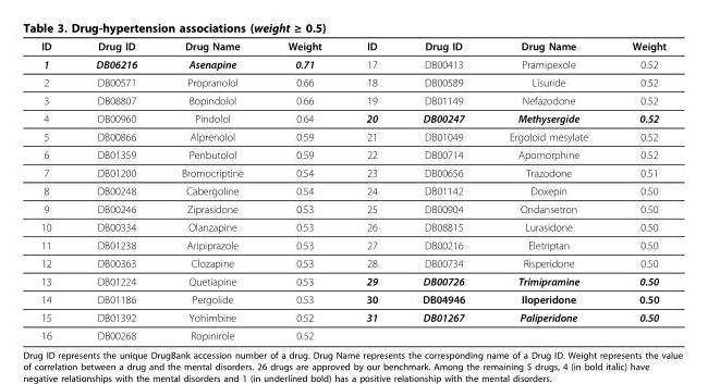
<table><thead><tr><td>ID</td><td>Drug ID</td><td>Drug Name</td><td>Weight</td><td>ID</td><td>Drug ID</td><td>Drug Name</td><td>Weight</td></tr></thead><tbody><tr><td>1</td><td>DB06216</td><td>Asenapine</td><td>0.71</td><td>17</td><td>DB00413</td><td>Pramipexole</td><td>0.52</td></tr><tr><td>2</td><td>DB00571</td><td>Propranolol</td><td>0.66</td><td>18</td><td>DB00589</td><td>Lisuride</td><td>0.52</td></tr><tr><td>3</td><td>DB08807</td><td>Bopindolol</td><td>0.66</td><td>19</td><td>DB01149</td><td>Nefazodone</td><td>0.52</td></tr><tr><td>4</td><td>DB00960</td><td>Pindolol</td><td>0.64</td><td>20</td><td>DB00247</td><td>Methysergide</td><td>0.52</td></tr><tr><td>5</td><td>DB00866</td><td>Alprenolol</td><td>0.59</td><td>21</td><td>DB01049</td><td>Ergoloid mesylate</td><td>0.52</td></tr><tr><td>6</td><td>DB01359</td><td>Penbutolol</td><td>0.59</td><td>22</td><td>DB00714</td><td>Apomorphine</td><td>0.52</td></tr><tr><td>7</td><td>DB01200</td><td>Bromocriptine</td><td>0.54</td><td>23</td><td>DB00656</td><td>Trazodone</td><td>0.51</td></tr><tr><td>8</td><td>DB00248</td><td>Cabergoline</td><td>0.54</td><td>24</td><td>DB01142</td><td>Doxepin</td><td>0.50</td></tr><tr><td>9</td><td>DB00246</td><td>Ziprasidone</td><td>0.53</td><td>25</td><td>DB00904</td><td>Ondansetron</td><td>0.50</td></tr><tr><td>10</td><td>DB00334</td><td>Olanzapine</td><td>0.53</td><td>26</td><td>DB08815</td><td>Lurasidone</td><td>0.50</td></tr><tr><td>11</td><td>DB01238</td><td>Aripiprazole</td><td>0.53</td><td>27</td><td>DB00216</td><td>Eletriptan</td><td>0.50</td></tr><tr><td>12</td><td>DB00363</td><td>Clozapine</td><td>0.53</td><td>28</td><td>DB00734</td><td>Risperidone</td><td>0.50</td></tr><tr><td>13</td><td>DB01224</td><td>Quetiapine</td><td>0.53</td><td>29</td><td>DB00726</td><td>Trimipramine</td><td>0.50</td></tr><tr><td>14</td><td>DB01186</td><td>Pergolide</td><td>0.53</td><td>30</td><td>DB04946</td><td>Iloperidone</td><td>0.50</td></tr><tr><td>15</td><td>DB01392</td><td>Yohimbine</td><td>0.52</td><td>31</td><td>DB01267</td><td>Paliperidone</td><td>0.50</td></tr><tr><td>16</td><td>DB00268</td><td>Ropinirole</td><td>0.52</td><td></td><td></td><td></td><td></td></tr></tbody></table>